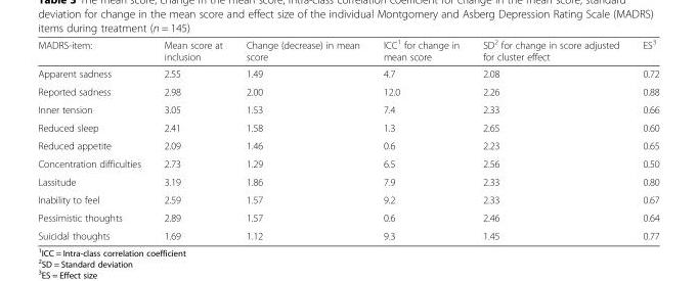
<table><thead><tr><td>MADRS-item:</td><td>Mean score at inclusion</td><td>Change (decrease) in mean score</td><td>ICC<sup>1</sup> for change in mean score</td><td>SD<sup>2</sup> for change in score adjusted for cluster effect</td><td>ES<sup>3</sup></td></tr></thead><tbody><tr><td>Apparent sadness</td><td>2.55</td><td>1.49</td><td>4.7</td><td>2.08</td><td>0.72</td></tr><tr><td>Reported sadness</td><td>2.98</td><td>2.00</td><td>12.0</td><td>2.26</td><td>0.88</td></tr><tr><td>Inner tension</td><td>3.05</td><td>1.53</td><td>7.4</td><td>2.33</td><td>0.66</td></tr><tr><td>Reduced sleep</td><td>2.41</td><td>1.58</td><td>1.3</td><td>2.65</td><td>0.60</td></tr><tr><td>Reduced appetite</td><td>2.09</td><td>1.46</td><td>0.6</td><td>2.23</td><td>0.65</td></tr><tr><td>Concentration difficulties</td><td>2.73</td><td>1.29</td><td>6.5</td><td>2.56</td><td>0.50</td></tr><tr><td>Lassitude</td><td>3.19</td><td>1.86</td><td>7.9</td><td>2.33</td><td>0.80</td></tr><tr><td>Inability to feel</td><td>2.59</td><td>1.57</td><td>9.2</td><td>2.33</td><td>0.67</td></tr><tr><td>Pessimistic thoughts</td><td>2.89</td><td>1.57</td><td>0.6</td><td>2.46</td><td>0.64</td></tr><tr><td>Suicidal thoughts</td><td>1.69</td><td>1.12</td><td>9.3</td><td>1.45</td><td>0.77</td></tr></tbody></table>